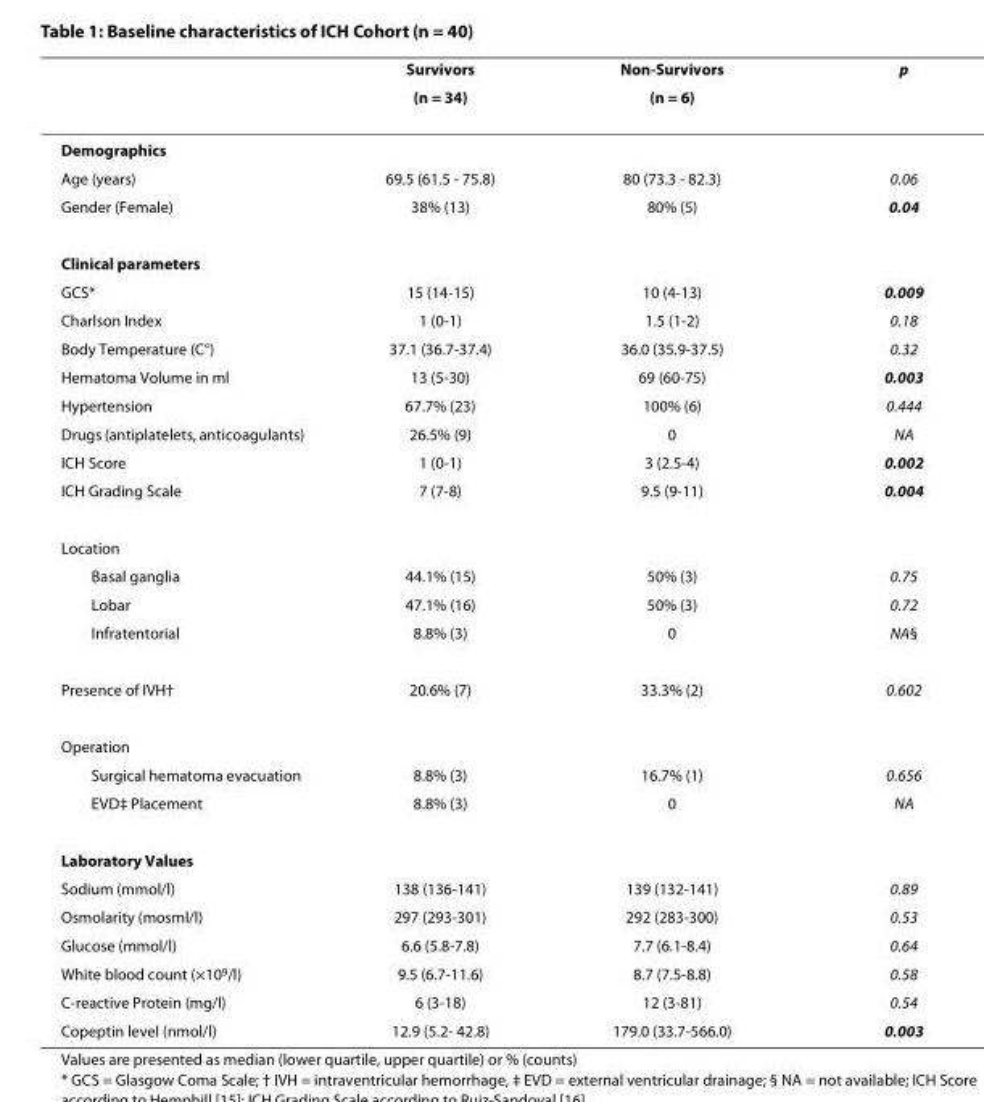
<table><thead><tr><td rowspan="2"></td><td rowspan="2">Survivors (n = 34)</td><td rowspan="2">Non-Survivors (n = 6)</td><td rowspan="2">p</td></tr><tr></tr></thead><tbody><tr><td colspan="4">Demographics</td></tr><tr><td>Age (years)</td><td>69.5 (61.5 - 75.8)</td><td>80 (73.3 - 82.3)</td><td>0.06</td></tr><tr><td>Gender (Female)</td><td>38% (13)</td><td>80% (5)</td><td>0.04</td></tr><tr><td colspan="4">Clinical parameters</td></tr><tr><td>GCS*</td><td>15 (14-15)</td><td>10 (4-13)</td><td>0.009</td></tr><tr><td>Charlson Index</td><td>1 (0-1)</td><td>1.5 (1-2)</td><td>0.18</td></tr><tr><td>Body Temperature (C°)</td><td>37.1 (36.7-37.4)</td><td>36.0 (35.9-37.5)</td><td>0.32</td></tr><tr><td>Hematoma Volume in ml</td><td>13 (5-30)</td><td>69 (60-75)</td><td>0.003</td></tr><tr><td>Hypertension</td><td>67.7% (23)</td><td>100% (6)</td><td>0.444</td></tr><tr><td>Drugs (antiplatelets, anticoagulants)</td><td>26.5% (9)</td><td>0</td><td>NA</td></tr><tr><td>ICH Score</td><td>1 (0-1)</td><td>3 (2.5-4)</td><td>0.002</td></tr><tr><td>ICH Grading Scale</td><td>7 (7-8)</td><td>9.5 (9-11)</td><td>0.004</td></tr><tr><td colspan="4">Location</td></tr><tr><td>Basal ganglia</td><td>44.1% (15)</td><td>50% (3)</td><td>0.75</td></tr><tr><td>Lobar</td><td>47.1% (16)</td><td>50% (3)</td><td>0.72</td></tr><tr><td>Infratentorial</td><td>8.8% (3)</td><td>0</td><td>NA§</td></tr><tr><td>Presence of IVH†</td><td>20.6% (7)</td><td>33.3% (2)</td><td>0.602</td></tr><tr><td colspan="4">Operation</td></tr><tr><td>Surgical hematoma evacuation</td><td>8.8% (3)</td><td>16.7% (1)</td><td>0.656</td></tr><tr><td>EVD‡ Placement</td><td>8.8% (3)</td><td>0</td><td>NA</td></tr><tr><td colspan="4">Laboratory Values</td></tr><tr><td>Sodium (mmol/l)</td><td>138 (136-141)</td><td>139 (132-141)</td><td>0.89</td></tr><tr><td>Osmolarity (mosml/l)</td><td>297 (293-301)</td><td>292 (283-300)</td><td>0.53</td></tr><tr><td>Glucose (mmol/l)</td><td>6.6 (5.8-7.8)</td><td>7.7 (6.1-8.4)</td><td>0.64</td></tr><tr><td>White blood count (×10<sup>9</sup>/l)</td><td>9.5 (6.7-11.6)</td><td>8.7 (7.5-8.8)</td><td>0.58</td></tr><tr><td>C-reactive Protein (mg/l)</td><td>6 (3-18)</td><td>12 (3-81)</td><td>0.54</td></tr><tr><td>Copeptin level (nmol/l)</td><td>12.9 (5.2- 42.8)</td><td>179.0 (33.7-566.0)</td><td>0.003</td></tr></tbody></table>